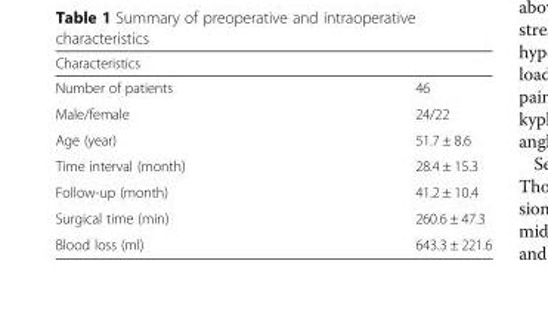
<table><thead><tr><td>Characteristics</td><td></td></tr></thead><tbody><tr><td>Number of patients</td><td>46</td></tr><tr><td>Male/female</td><td>24/22</td></tr><tr><td>Age (year)</td><td>51.7 ± 8.6</td></tr><tr><td>Time interval (month)</td><td>28.4 ± 15.3</td></tr><tr><td>Follow-up (month)</td><td>41.2 ± 10.4</td></tr><tr><td>Surgical time (min)</td><td>260.6 ± 47.3</td></tr><tr><td>Blood loss (ml)</td><td>643.3 ± 221.6</td></tr></tbody></table>